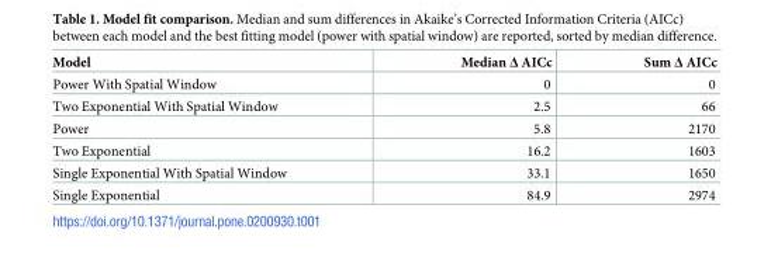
<table><thead><tr><td>Model</td><td>Median Δ AICc</td><td>Sum Δ AICc</td></tr></thead><tbody><tr><td>Power With Spatial Window</td><td>0</td><td>0</td></tr><tr><td>Two Exponential With Spatial Window</td><td>2.5</td><td>66</td></tr><tr><td>Power</td><td>5.8</td><td>2170</td></tr><tr><td>Two Exponential</td><td>16.2</td><td>1603</td></tr><tr><td>Single Exponential With Spatial Window</td><td>33.1</td><td>1650</td></tr><tr><td>Single Exponential</td><td>84.9</td><td>2974</td></tr></tbody></table>